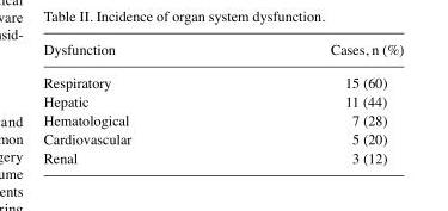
<table><thead><tr><td>Dysfunction</td><td>Cases, n (%)</td></tr></thead><tbody><tr><td>Respiratory</td><td>15 (60)</td></tr><tr><td>Hepatic</td><td>11 (44)</td></tr><tr><td>Hematological</td><td>7 (28)</td></tr><tr><td>Cardiovascular</td><td>5 (20)</td></tr><tr><td>Renal</td><td>3 (12)</td></tr></tbody></table>